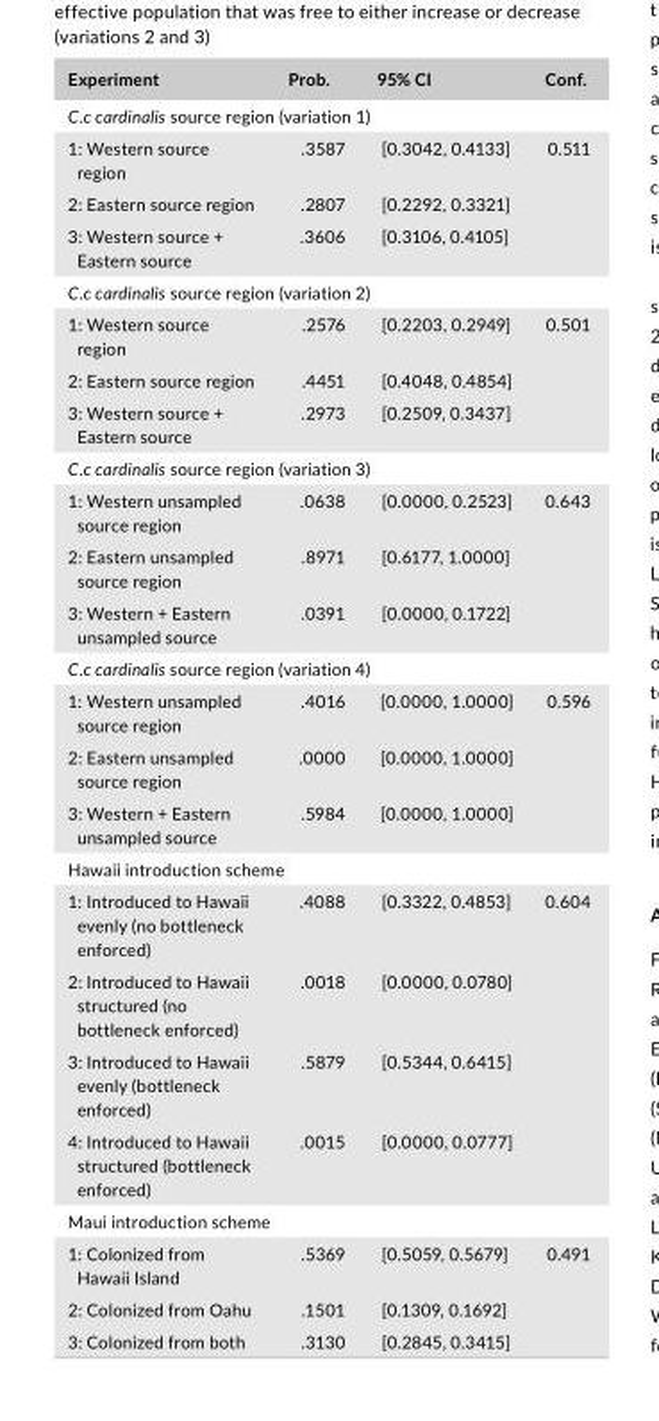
<table><thead><tr><td>Experiment</td><td>Prob.</td><td>95% CI</td><td>Conf.</td></tr></thead><tbody><tr><td colspan="4">C.c cardinalis source region (variation 1)</td></tr><tr><td>1: Western source region</td><td>.3587</td><td>[0.3042, 0.4133]</td><td rowspan="3">0.511</td></tr><tr><td>2: Eastern source region</td><td>.2807</td><td>[0.2292, 0.3321]</td></tr><tr><td>3: Western source + Eastern source</td><td>.3606</td><td>[0.3106, 0.4105]</td></tr><tr><td colspan="4">C.c cardinalis source region (variation 2)</td></tr><tr><td>1: Western source region</td><td>.2576</td><td>[0.2203, 0.2949]</td><td rowspan="3">0.501</td></tr><tr><td>2: Eastern source region</td><td>.4451</td><td>[0.4048, 0.4854]</td></tr><tr><td>3: Western source + Eastern source</td><td>.2973</td><td>[0.2509, 0.3437]</td></tr><tr><td colspan="4">C.c cardinalis source region (variation 3)</td></tr><tr><td>1: Western unsampled source region</td><td>.0638</td><td>[0.0000, 0.2523]</td><td rowspan="3">0.643</td></tr><tr><td>2: Eastern unsampled source region</td><td>.8971</td><td>[0.6177, 1.0000]</td></tr><tr><td>3: Western + Eastern unsampled source</td><td>.0391</td><td>[0.0000, 0.1722]</td></tr><tr><td colspan="4">C.c cardinalis source region (variation 4)</td></tr><tr><td>1: Western unsampled source region</td><td>.4016</td><td>[0.0000, 1.0000]</td><td rowspan="3">0.596</td></tr><tr><td>2: Eastern unsampled source region</td><td>.0000</td><td>[0.0000, 1.0000]</td></tr><tr><td>3: Western + Eastern unsampled source</td><td>.5984</td><td>[0.0000, 1.0000]</td></tr><tr><td colspan="4">Hawaii introduction scheme</td></tr><tr><td>1: Introduced to Hawaii evenly (no bottleneck enforced)</td><td>.4088</td><td>[0.3322, 0.4853]</td><td rowspan="4">0.604</td></tr><tr><td>2: Introduced to Hawaii structured (no bottleneck enforced)</td><td>.0018</td><td>[0.0000, 0.0780]</td></tr><tr><td>3: Introduced to Hawaii evenly (bottleneck enforced)</td><td>.5879</td><td>[0.5344, 0.6415]</td></tr><tr><td>4: Introduced to Hawaii structured (bottleneck enforced)</td><td>.0015</td><td>[0.0000, 0.0777]</td></tr><tr><td colspan="4">Maui introduction scheme</td></tr><tr><td>1: Colonized from Hawaii Island</td><td>.5369</td><td>[0.5059, 0.5679]</td><td rowspan="3">0.491</td></tr><tr><td>2: Colonized from Oahu</td><td>.1501</td><td>[0.1309, 0.1692]</td></tr><tr><td>3: Colonized from both</td><td>.3130</td><td>[0.2845, 0.3415]</td></tr></tbody></table>